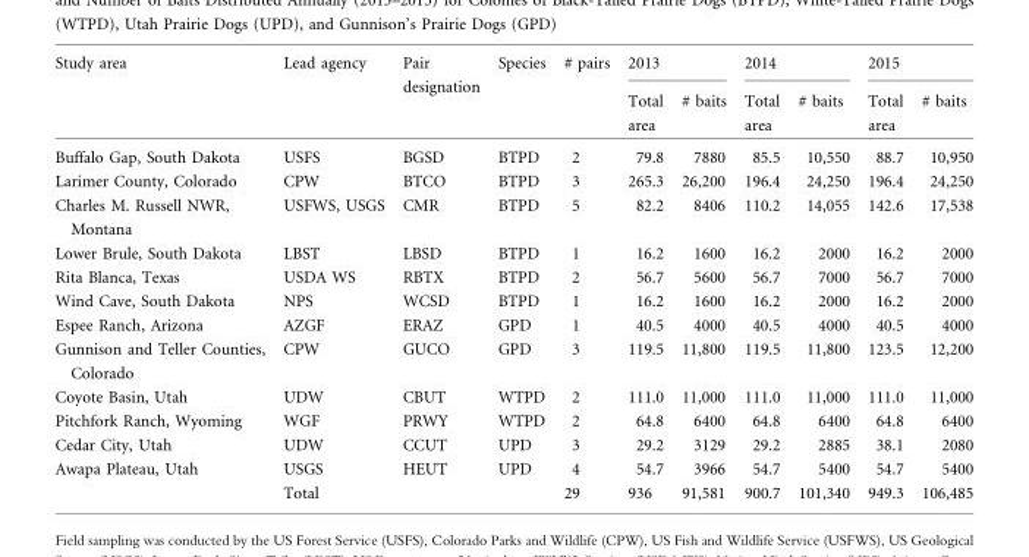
<table><thead><tr><td rowspan="2">Study area</td><td rowspan="2">Lead agency</td><td rowspan="2">Pair designation</td><td rowspan="2">Species</td><td rowspan="2"># pairs</td><td colspan="2">2013</td><td colspan="2">2014</td><td colspan="2">2015</td></tr><tr><td>Total area</td><td># baits</td><td>Total area</td><td># baits</td><td>Total area</td><td># baits</td></tr></thead><tbody><tr><td>Buffalo Gap, South Dakota</td><td>USFS</td><td>BGSD</td><td>BTPD</td><td>2</td><td>79.8</td><td>7880</td><td>85.5</td><td>10,550</td><td>88.7</td><td>10,950</td></tr><tr><td>Larimer County, Colorado</td><td>CPW</td><td>BTCO</td><td>BTPD</td><td>3</td><td>265.3</td><td>26,200</td><td>196.4</td><td>24,250</td><td>196.4</td><td>24,250</td></tr><tr><td>Charles M. Russell NWR, Montana</td><td>USFWS, USGS</td><td>CMR</td><td>BTPD</td><td>5</td><td>82.2</td><td>8406</td><td>110.2</td><td>14,055</td><td>142.6</td><td>17,538</td></tr><tr><td>Lower Brule, South Dakota</td><td>LBST</td><td>LBSD</td><td>BTPD</td><td>1</td><td>16.2</td><td>1600</td><td>16.2</td><td>2000</td><td>16.2</td><td>2000</td></tr><tr><td>Rita Blanca, Texas</td><td>USDA WS</td><td>RBTX</td><td>BTPD</td><td>2</td><td>56.7</td><td>5600</td><td>56.7</td><td>7000</td><td>56.7</td><td>7000</td></tr><tr><td>Wind Cave, South Dakota</td><td>NPS</td><td>WCSD</td><td>BTPD</td><td>1</td><td>16.2</td><td>1600</td><td>16.2</td><td>2000</td><td>16.2</td><td>2000</td></tr><tr><td>Espee Ranch, Arizona</td><td>AZGF</td><td>ERAZ</td><td>GPD</td><td>1</td><td>40.5</td><td>4000</td><td>40.5</td><td>4000</td><td>40.5</td><td>4000</td></tr><tr><td>Gunnison and Teller Counties, Colorado</td><td>CPW</td><td>GUCO</td><td>GPD</td><td>3</td><td>119.5</td><td>11,800</td><td>119.5</td><td>11,800</td><td>123.5</td><td>12,200</td></tr><tr><td>Coyote Basin, Utah</td><td>UDW</td><td>CBUT</td><td>WTPD</td><td>2</td><td>111.0</td><td>11,000</td><td>111.0</td><td>11,000</td><td>111.0</td><td>11,000</td></tr><tr><td>Pitchfork Ranch, Wyoming</td><td>WGF</td><td>PRWY</td><td>WTPD</td><td>2</td><td>64.8</td><td>6400</td><td>64.8</td><td>6400</td><td>64.8</td><td>6400</td></tr><tr><td>Cedar City, Utah</td><td>UDW</td><td>CCUT</td><td>UPD</td><td>3</td><td>29.2</td><td>3129</td><td>29.2</td><td>2885</td><td>38.1</td><td>2080</td></tr><tr><td rowspan="2">Awapa Plateau, Utah</td><td>USGS</td><td>HEUT</td><td>UPD</td><td>4</td><td>54.7</td><td>3966</td><td>54.7</td><td>5400</td><td>54.7</td><td>5400</td></tr><tr><td colspan="3">Total</td><td>29</td><td>936</td><td>91,581</td><td>900.7</td><td>101,340</td><td>949.3</td><td>106,485</td></tr></tbody></table>